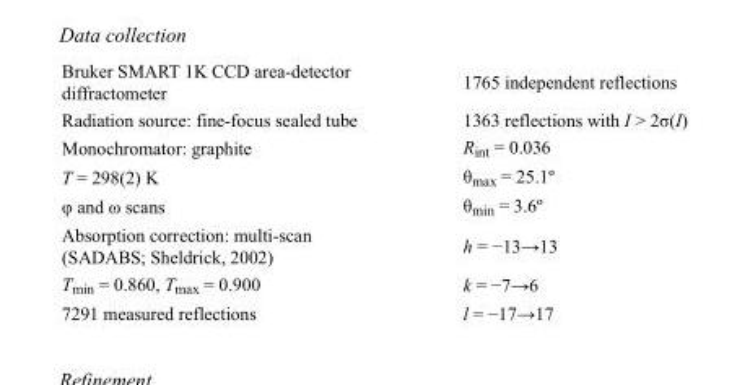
<table><tbody><tr><td>Bruker SMART 1K CCD area-detector diffractometer</td><td>1765 independent reflections</td></tr><tr><td>Radiation source: fine-focus sealed tube</td><td>1363 reflections with I &gt; 2σ(I)</td></tr><tr><td>Monochromator: graphite</td><td>R<sub>int</sub> = 0.036</td></tr><tr><td>T = 298(2) K</td><td>θ<sub>max</sub> = 25.1º</td></tr><tr><td>φ and ω scans</td><td>θ<sub>min</sub> = 3.6º</td></tr><tr><td>Absorption correction: multi-scan (SADABS; Sheldrick, 2002)</td><td>h = −13→13</td></tr><tr><td>T<sub>min</sub> = 0.860, T<sub>max</sub> = 0.900</td><td>k = −7→6</td></tr><tr><td>7291 measured reflections</td><td>l = −17→17</td></tr></tbody></table>